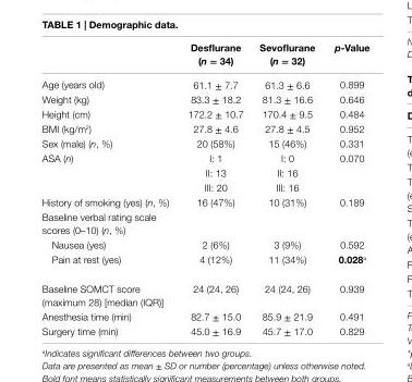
<table><thead><tr><td></td><td>Desflurane (n = 34)</td><td>sevoflurane (n = 32)</td><td>p-Value</td></tr></thead><tbody><tr><td>Age (years old)</td><td>61.1 ± 7.7</td><td>61.3 ± 6.6</td><td>0.899</td></tr><tr><td>Weight (kg)</td><td>83.3 ± 18.2</td><td>81.3 ± 16.6</td><td>0.646</td></tr><tr><td>Height (cm)</td><td>172.2 ± 10.7</td><td>170.4 ± 9.5</td><td>0.484</td></tr><tr><td>BMI (kg/m<sup>2</sup>)</td><td>27.8 ± 4.6</td><td>27.8 ± 4.5</td><td>0.952</td></tr><tr><td>Sex (male) (n, %)</td><td>20 (58%)</td><td>15 (46%)</td><td>0.331</td></tr><tr><td rowspan="3">ASA (n)</td><td>I: 1</td><td>I: 0</td><td>0.070</td></tr><tr><td>II: 13</td><td>II: 16</td><td></td></tr><tr><td>III: 20</td><td>III: 16</td><td></td></tr><tr><td>History of smoking (yes) (n, %)</td><td>16 (47%)</td><td>10 (31%)</td><td>0.189</td></tr><tr><td colspan="4">Baseline verbal rating scale scores (0–10) (n, %)</td></tr><tr><td>Nausea (yes)</td><td>2 (6%)</td><td>3 (9%)</td><td>0.592</td></tr><tr><td>Pain at rest (yes)</td><td>4 (12%)</td><td>11 (34%)</td><td>0.028<sup>a</sup></td></tr><tr><td>Baseline SOMCT score (maximum 28) [median (IQR)]</td><td>24 (24, 26)</td><td>24 (24, 26)</td><td>0.939</td></tr><tr><td>Anesthesia time (min)</td><td>82.7 ± 15.0</td><td>85.9 ± 21.9</td><td>0.491</td></tr><tr><td>Surgery time (min)</td><td>45.0 ± 16.9</td><td>45.7 ± 17.0</td><td>0.829</td></tr></tbody></table>